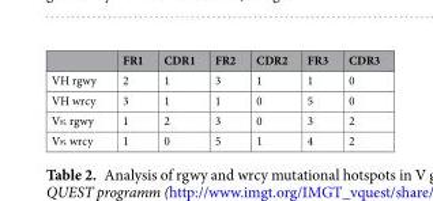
<table><thead><tr><td></td><td>FR1</td><td>CDR1</td><td>FR2</td><td>CDR2</td><td>FR3</td><td>CDR3</td></tr></thead><tbody><tr><td>VH rgwy</td><td>2</td><td>1</td><td>3</td><td>1</td><td>1</td><td>0</td></tr><tr><td>VH wrcy</td><td>3</td><td>1</td><td>1</td><td>0</td><td>5</td><td>0</td></tr><tr><td>Vκ rgwy</td><td>1</td><td>2</td><td>3</td><td>0</td><td>3</td><td>2</td></tr><tr><td>Vκ wrcy</td><td>1</td><td>0</td><td>5</td><td>1</td><td>4</td><td>2</td></tr></tbody></table>